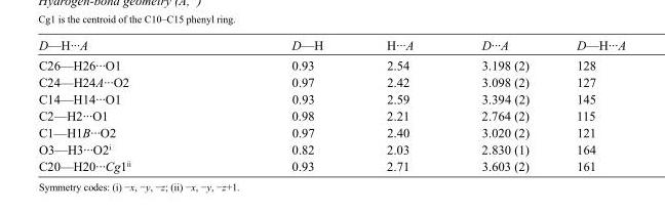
<table><tbody><tr><td>D—H···A</td><td>D—H</td><td>H···A</td><td>D···A</td><td>D—H···A</td></tr><tr><td>C26—H26···O1</td><td>0.93</td><td>2.54</td><td>3.198 (2)</td><td>128</td></tr><tr><td>C24—H24A···O2</td><td>0.97</td><td>2.42</td><td>3.098 (2)</td><td>127</td></tr><tr><td>C14—H14···O1</td><td>0.93</td><td>2.59</td><td>3.394 (2)</td><td>145</td></tr><tr><td>C2—H2···O1</td><td>0.98</td><td>2.21</td><td>2.764 (2)</td><td>115</td></tr><tr><td>C1—H1B···O2</td><td>0.97</td><td>2.40</td><td>3.020 (2)</td><td>121</td></tr><tr><td>O3—H3···O2<sup>i</sup></td><td>0.82</td><td>2.03</td><td>2.830 (1)</td><td>164</td></tr><tr><td>C20—H20···Cg1<sup>ii</sup></td><td>0.93</td><td>2.71</td><td>3.603 (2)</td><td>161</td></tr></tbody></table>